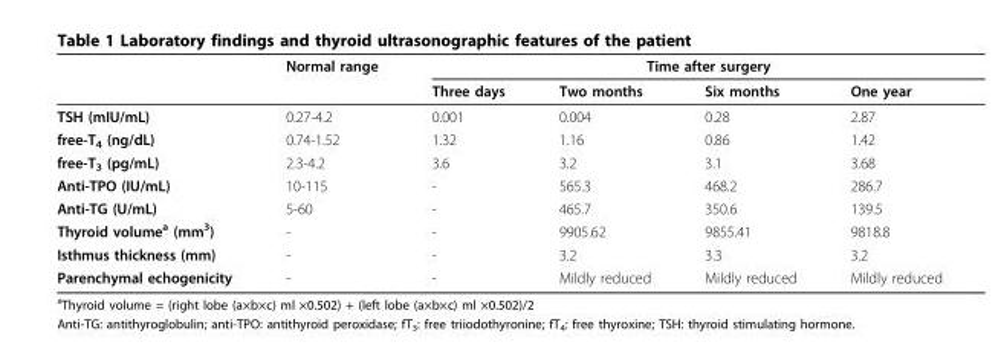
<table><thead><tr><td rowspan="2"></td><td rowspan="2">Normal range</td><td colspan="4">Time after surgery</td></tr><tr><td>Three days</td><td>Two months</td><td>Six months</td><td>One year</td></tr></thead><tbody><tr><td>TSH (mIU/mL)</td><td>0.27-4.2</td><td>0.001</td><td>0.004</td><td>0.28</td><td>2.87</td></tr><tr><td>free-T<sub>4</sub> (ng/dL)</td><td>0.74-1.52</td><td>1.32</td><td>1.16</td><td>0.86</td><td>1.42</td></tr><tr><td>free-T<sub>3</sub> (pg/mL)</td><td>2.3-4.2</td><td>3.6</td><td>3.2</td><td>3.1</td><td>3.68</td></tr><tr><td>Anti-TPO (IU/mL)</td><td>10-115</td><td>-</td><td>565.3</td><td>468.2</td><td>286.7</td></tr><tr><td>Anti-TG (U/mL)</td><td>5-60</td><td>-</td><td>465.7</td><td>350.6</td><td>139.5</td></tr><tr><td>Thyroid volume<sup>a</sup> (mm<sup>3</sup>)</td><td>-</td><td>-</td><td>9905.62</td><td>9855.41</td><td>9818.8</td></tr><tr><td>Isthmus thickness (mm)</td><td>-</td><td>-</td><td>3.2</td><td>3.3</td><td>3.2</td></tr><tr><td>Parenchymal echogenicity</td><td>-</td><td>-</td><td>Mildly reduced</td><td>Mildly reduced</td><td>Mildly reduced</td></tr></tbody></table>